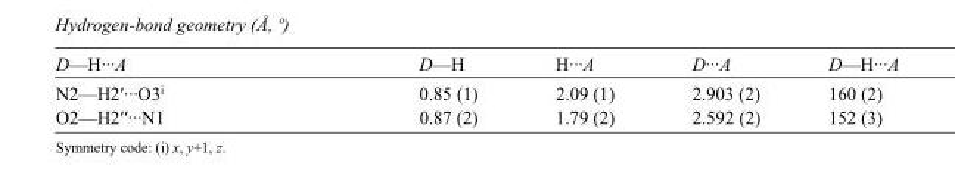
<table><tbody><tr><td>D—H···A</td><td>D—H</td><td>H···A</td><td>D···A</td><td>D—H···A</td></tr><tr><td>N2—H2′···O3<sup>i</sup></td><td>0.85 (1)</td><td>2.09 (1)</td><td>2.903 (2)</td><td>160 (2)</td></tr><tr><td>O2—H2′′···N1</td><td>0.87 (2)</td><td>1.79 (2)</td><td>2.592 (2)</td><td>152 (3)</td></tr></tbody></table>